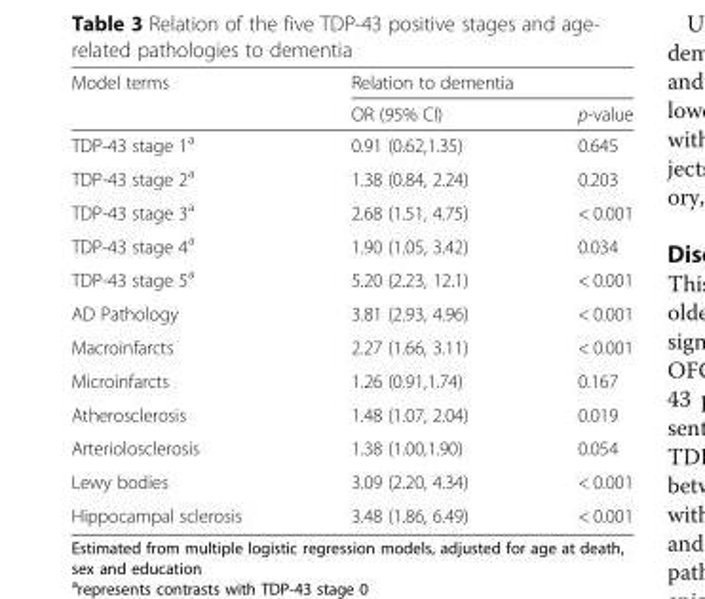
<table><thead><tr><td rowspan="2">Model terms</td><td colspan="2">Relation to dementia</td></tr><tr><td>OR (95% CI)</td><td>p-value</td></tr></thead><tbody><tr><td>TDP-43 stage 1<sup>a</sup></td><td>0.91 (0.62,1.35)</td><td>0.645</td></tr><tr><td>TDP-43 stage 2<sup>a</sup></td><td>1.38 (0.84, 2.24)</td><td>0.203</td></tr><tr><td>TDP-43 stage 3<sup>a</sup></td><td>2.68 (1.51, 4.75)</td><td>&lt; 0.001</td></tr><tr><td>TDP-43 stage 4<sup>a</sup></td><td>1.90 (1.05, 3.42)</td><td>0.034</td></tr><tr><td>TDP-43 stage 5<sup>a</sup></td><td>5.20 (2.23, 12.1)</td><td>&lt; 0.001</td></tr><tr><td>AD Pathology</td><td>3.81 (2.93, 4.96)</td><td>&lt; 0.001</td></tr><tr><td>Macroinfarcts</td><td>2.27 (1.66, 3.11)</td><td>&lt; 0.001</td></tr><tr><td>Microinfarcts</td><td>1.26 (0.91,1.74)</td><td>0.167</td></tr><tr><td>Atherosclerosis</td><td>1.48 (1.07, 2.04)</td><td>0.019</td></tr><tr><td>Arteriolosclerosis</td><td>1.38 (1.00,1.90)</td><td>0.054</td></tr><tr><td>Lewy bodies</td><td>3.09 (2.20, 4.34)</td><td>&lt; 0.001</td></tr><tr><td>Hippocampal sclerosis</td><td>3.48 (1.86, 6.49)</td><td>&lt; 0.001</td></tr></tbody></table>